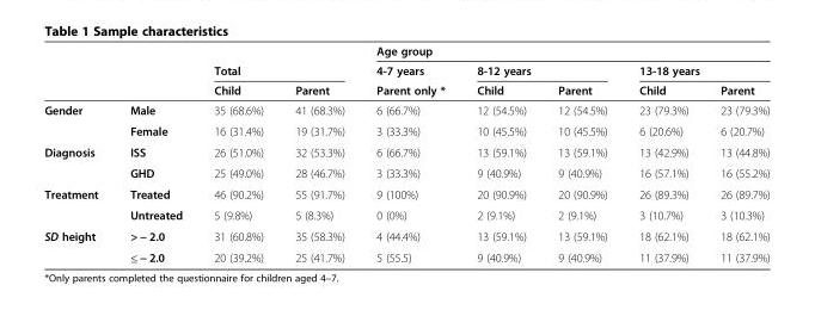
<table><thead><tr><td rowspan="3"></td><td rowspan="3"></td><td></td><td></td><td colspan="5">Age group</td></tr><tr><td colspan="2">Total</td><td rowspan="2">4-7 years Parent only *</td><td colspan="2">8-12 years</td><td colspan="2">13-18 years</td></tr><tr><td>Child</td><td>Parent</td><td>Child</td><td>Parent</td><td>Child</td><td>Parent</td></tr></thead><tbody><tr><td rowspan="2">Gender</td><td>Male</td><td>35 (68.6%)</td><td>41 (68.3%)</td><td>6 (66.7%)</td><td>12 (54.5%)</td><td>12 (54.5%)</td><td>23 (79.3%)</td><td>23 (79.3%)</td></tr><tr><td>Female</td><td>16 (31.4%)</td><td>19 (31.7%)</td><td>3 (33.3%)</td><td>10 (45.5%)</td><td>10 (45.5%)</td><td>6 (20.6%)</td><td>6 (20.7%)</td></tr><tr><td rowspan="2">Diagnosis</td><td>ISS</td><td>26 (51.0%)</td><td>32 (53.3%)</td><td>6 (66.7%)</td><td>13 (59.1%)</td><td>13 (59.1%)</td><td>13 (42.9%)</td><td>13 (44.8%)</td></tr><tr><td>GHD</td><td>25 (49.0%)</td><td>28 (46.7%)</td><td>3 (33.3%)</td><td>9 (40.9%)</td><td>9 (40.9%)</td><td>16 (57.1%)</td><td>16 (55.2%)</td></tr><tr><td rowspan="2">Treatment</td><td>Treated</td><td>46 (90.2%)</td><td>55 (91.7%)</td><td>9 (100%)</td><td>20 (90.9%)</td><td>20 (90.9%)</td><td>26 (89.3%)</td><td>26 (89.7%)</td></tr><tr><td>Untreated</td><td>5 (9.8%)</td><td>5 (8.3%)</td><td>0 (0%)</td><td>2 (9.1%)</td><td>2 (9.1%)</td><td>3 (10.7%)</td><td>3 (10.3%)</td></tr><tr><td rowspan="2">SD height</td><td>&gt; − 2.0</td><td>31 (60.8%)</td><td>35 (58.3%)</td><td>4 (44.4%)</td><td>13 (59.1%)</td><td>13 (59.1%)</td><td>18 (62.1%)</td><td>18 (62.1%)</td></tr><tr><td>≤ − 2.0</td><td>20 (39.2%)</td><td>25 (41.7%)</td><td>5 (55.5)</td><td>9 (40.9%)</td><td>9 (40.9%)</td><td>11 (37.9%)</td><td>11 (37.9%)</td></tr></tbody></table>